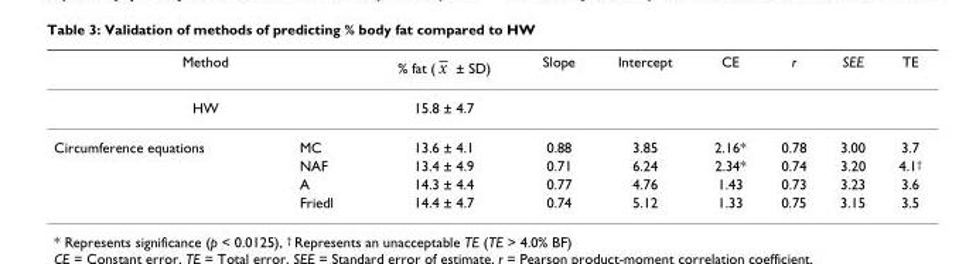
<table><thead><tr><td rowspan="2" colspan="2">Method HW</td><td rowspan="3">% fat ( ± SD) 15.8 ± 4.7 13.6 ± 4.1 x</td><td rowspan="3">Slope 0.88</td><td rowspan="3">Intercept 3.85</td><td rowspan="3">CE 2.16*</td><td rowspan="3">r 0.78</td><td rowspan="3">SEE 3.00</td><td rowspan="3">TE 3.7</td></tr><tr></tr><tr><td>Circumference equations</td><td>MC</td></tr></thead><tbody><tr><td></td><td>NAF</td><td>13.4 ± 4.9</td><td>0.71</td><td>6.24</td><td>2.34*</td><td>0.74</td><td>3.20</td><td>4.1<sup>†</sup></td></tr><tr><td></td><td>A</td><td>14.3 ± 4.4</td><td>0.77</td><td>4.76</td><td>1.43</td><td>0.73</td><td>3.23</td><td>3.6</td></tr><tr><td></td><td>Friedl</td><td>14.4 ± 4.7</td><td>0.74</td><td>5.12</td><td>1.33</td><td>0.75</td><td>3.15</td><td>3.5</td></tr></tbody></table>